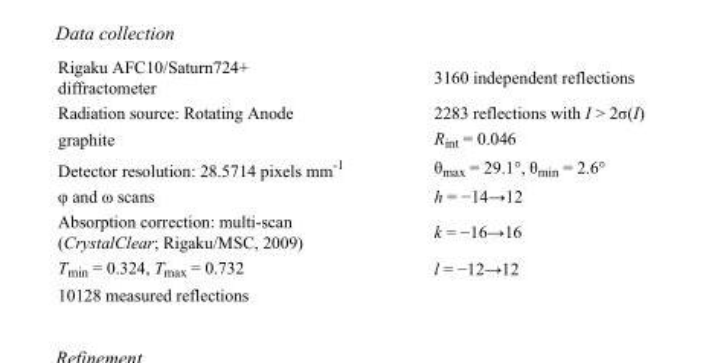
<table><tbody><tr><td>Rigaku AFC10/Saturn724+ diffractometer</td><td>3160 independent reflections</td></tr><tr><td>Radiation source: Rotating Anode</td><td>2283 reflections with I &gt; 2σ(I)</td></tr><tr><td>graphite</td><td>R<sub>int</sub> = 0.046</td></tr><tr><td>Detector resolution: 28.5714 pixels mm<sup>-1</sup></td><td>θ<sub>max</sub> = 29.1°, θ<sub>min</sub> = 2.6°</td></tr><tr><td>φ and ω scans</td><td>h = −14→12</td></tr><tr><td>Absorption correction: multi-scan (CrystalClear; Rigaku/MSC, 2009)</td><td>k = −16→16</td></tr><tr><td>T<sub>min</sub> = 0.324, T<sub>max</sub> = 0.732</td><td>l = −12→12</td></tr><tr><td>10128 measured reflections</td><td></td></tr></tbody></table>